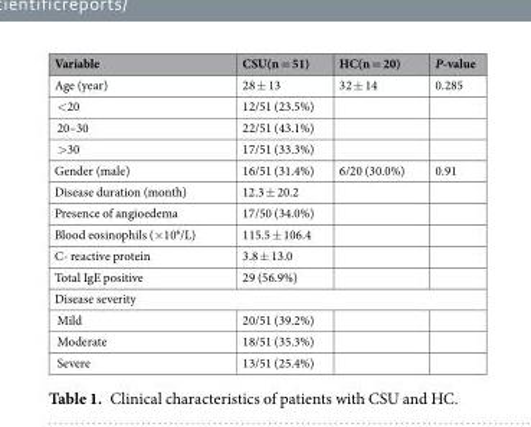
<table><thead><tr><td>Variable</td><td>CSU(n = 51)</td><td>HC(n = 20)</td><td>P-value</td></tr></thead><tbody><tr><td>Age (year)</td><td>28 ± 13</td><td>32 ± 14</td><td>0.285</td></tr><tr><td>&lt;20</td><td>12/51 (23.5%)</td><td></td><td></td></tr><tr><td>20–30</td><td>22/51 (43.1%)</td><td></td><td></td></tr><tr><td>&gt;30</td><td>17/51 (33.3%)</td><td></td><td></td></tr><tr><td>Gender (male)</td><td>16/51 (31.4%)</td><td>6/20 (30.0%)</td><td>0.91</td></tr><tr><td>Disease duration (month)</td><td>12.3 ± 20.2</td><td></td><td></td></tr><tr><td>Presence of angioedema</td><td>17/50 (34.0%)</td><td></td><td></td></tr><tr><td>Blood eosinophils (×10<sup>6</sup>/L)</td><td>115.5 ± 106.4</td><td></td><td></td></tr><tr><td>C- reactive protein</td><td>3.8 ± 13.0</td><td></td><td></td></tr><tr><td>Total IgE positive</td><td>29 (56.9%)</td><td></td><td></td></tr><tr><td colspan="4">Disease severity</td></tr><tr><td>Mild</td><td>20/51 (39.2%)</td><td></td><td></td></tr><tr><td>Moderate</td><td>18/51 (35.3%)</td><td></td><td></td></tr><tr><td>Severe</td><td>13/51 (25.4%)</td><td></td><td></td></tr></tbody></table>